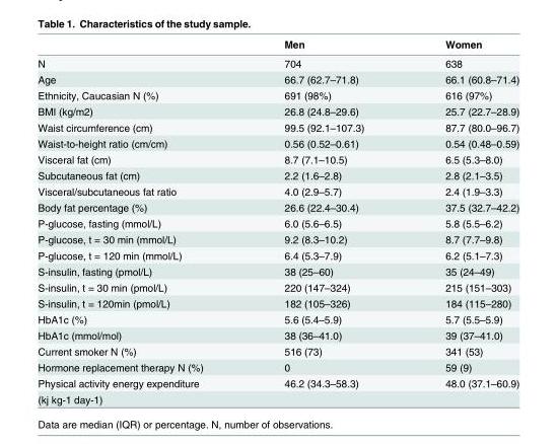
<table><thead><tr><td></td><td>Men</td><td>Women</td></tr></thead><tbody><tr><td>N</td><td>704</td><td>638</td></tr><tr><td>Age</td><td>66.7 (62.7–71.8)</td><td>66.1 (60.8–71.4)</td></tr><tr><td>Ethnicity, Caucasian N (%)</td><td>691 (98%)</td><td>616 (97%)</td></tr><tr><td>BMI (kg/m2)</td><td>26.8 (24.8–29.6)</td><td>25.7 (22.7–28.9)</td></tr><tr><td>Waist circumference (cm)</td><td>99.5 (92.1–107.3)</td><td>87.7 (80.0–96.7)</td></tr><tr><td>Waist-to-height ratio (cm/cm)</td><td>0.56 (0.52–0.61)</td><td>0.54 (0.48–0.59)</td></tr><tr><td>Visceral fat (cm)</td><td>8.7 (7.1–10.5)</td><td>6.5 (5.3–8.0)</td></tr><tr><td>Subcutaneous fat (cm)</td><td>2.2 (1.6–2.8)</td><td>2.8 (2.1–3.5)</td></tr><tr><td>Visceral/subcutaneous fat ratio</td><td>4.0 (2.9–5.7)</td><td>2.4 (1.9–3.3)</td></tr><tr><td>Body fat percentage (%)</td><td>26.6 (22.4–30.4)</td><td>37.5 (32.7–42.2)</td></tr><tr><td>P-glucose, fasting (mmol/L)</td><td>6.0 (5.6–6.5)</td><td>5.8 (5.5–6.2)</td></tr><tr><td>P-glucose, t = 30 min (mmol/L)</td><td>9.2 (8.3–10.2)</td><td>8.7 (7.7–9.8)</td></tr><tr><td>P-glucose, t = 120 min (mmol/L)</td><td>6.4 (5.3–7.9)</td><td>6.2 (5.1–7.3)</td></tr><tr><td>S-insulin, fasting (pmol/L)</td><td>38 (25–60)</td><td>35 (24–49)</td></tr><tr><td>S-insulin, t = 30 min (pmol/L)</td><td>220 (147–324)</td><td>215 (151–303)</td></tr><tr><td>S-insulin, t = 120min (pmol/L)</td><td>182 (105–326)</td><td>184 (115–280)</td></tr><tr><td>HbA1c (%)</td><td>5.6 (5.4–5.9)</td><td>5.7 (5.5–5.9)</td></tr><tr><td>HbA1c (mmol/mol)</td><td>38 (36–41.0)</td><td>39 (37–41.0)</td></tr><tr><td>Current smoker N (%)</td><td>516 (73)</td><td>341 (53)</td></tr><tr><td>Hormone replacement therapy N (%)</td><td>0</td><td>59 (9)</td></tr><tr><td>Physical activity energy expenditure</td><td>46.2 (34.3–58.3)</td><td>48.0 (37.1–60.9)</td></tr><tr><td>(kj kg-1 day-1)</td><td></td><td></td></tr></tbody></table>